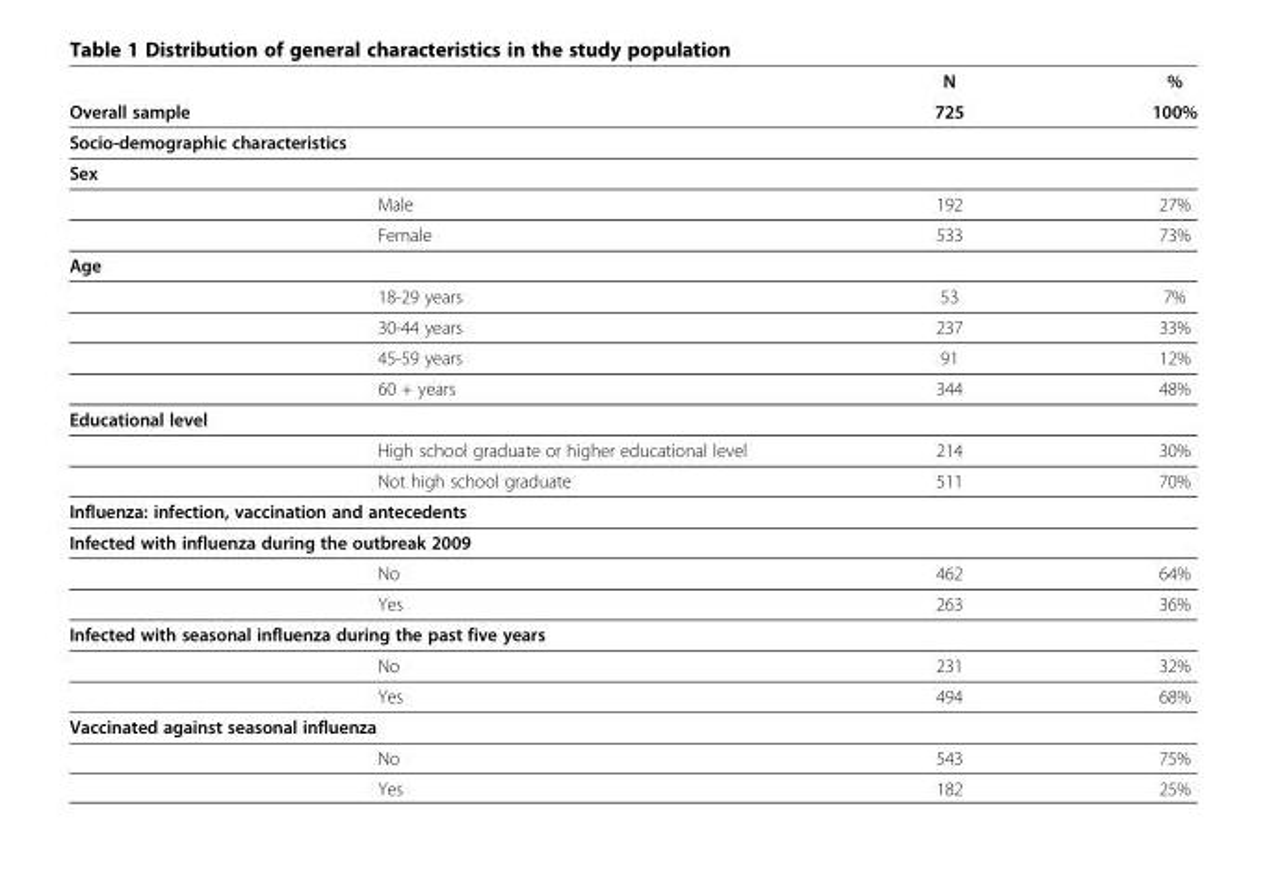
<table><thead><tr><td rowspan="2">Overall sample</td><td rowspan="2"></td><td rowspan="2">N 725</td><td rowspan="2">% 100%</td></tr><tr></tr></thead><tbody><tr><td colspan="4">Socio-demographic characteristics</td></tr><tr><td colspan="4">Sex</td></tr><tr><td></td><td>Male</td><td>192</td><td>27%</td></tr><tr><td></td><td>Female</td><td>533</td><td>73%</td></tr><tr><td colspan="4">Age</td></tr><tr><td></td><td>18-29 years</td><td>53</td><td>7%</td></tr><tr><td></td><td>30-44 years</td><td>237</td><td>33%</td></tr><tr><td></td><td>45-59 years</td><td>91</td><td>12%</td></tr><tr><td></td><td>60 + years</td><td>344</td><td>48%</td></tr><tr><td colspan="4">Educational level</td></tr><tr><td></td><td>High school graduate or higher educational level</td><td>214</td><td>30%</td></tr><tr><td></td><td>Not high school graduate</td><td>511</td><td>70%</td></tr><tr><td colspan="4">Influenza: infection, vaccination and antecedents</td></tr><tr><td colspan="4">Infected with influenza during the outbreak 2009</td></tr><tr><td></td><td>No</td><td>462</td><td>64%</td></tr><tr><td></td><td>Yes</td><td>263</td><td>36%</td></tr><tr><td colspan="4">Infected with seasonal influenza during the past five years</td></tr><tr><td></td><td>No</td><td>231</td><td>32%</td></tr><tr><td></td><td>Yes</td><td>494</td><td>68%</td></tr><tr><td colspan="4">Vaccinated against seasonal influenza</td></tr><tr><td></td><td>No</td><td>543</td><td>75%</td></tr><tr><td></td><td>Yes</td><td>182</td><td>25%</td></tr></tbody></table>